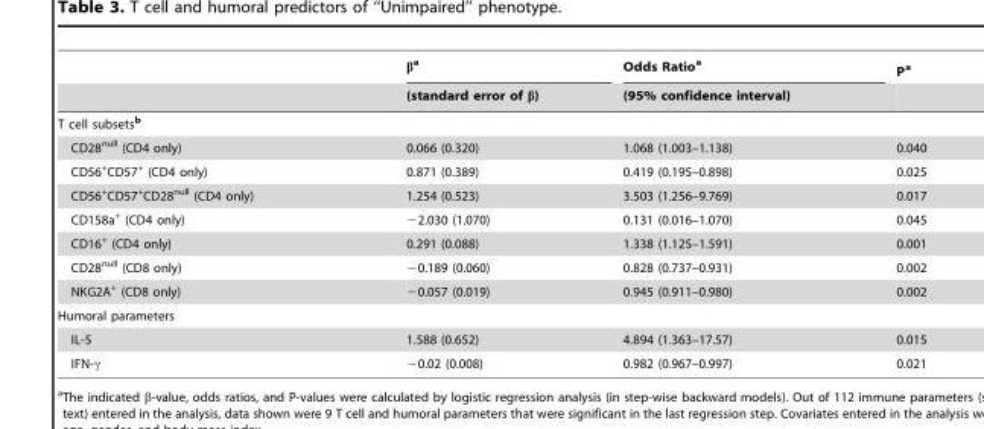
<table><thead><tr><td rowspan="2"></td><td rowspan="2">β<sup>a</sup> (standard error of β)</td><td rowspan="2">Odds Ratio<sup>a</sup> (95% confidence interval)</td><td rowspan="2">P<sup>a</sup></td></tr><tr></tr></thead><tbody><tr><td colspan="4">T cell subsets<sup>b</sup></td></tr><tr><td>CD28<sup>null</sup> (CD4 only)</td><td>0.066 (0.320)</td><td>1.068 (1.003–1.138)</td><td>0.040</td></tr><tr><td>CD56<sup>+</sup>CD57<sup>+</sup> (CD4 only)</td><td>0.871 (0.389)</td><td>0.419 (0.195–0.898)</td><td>0.025</td></tr><tr><td>CD56<sup>+</sup>CD57<sup>+</sup>CD28<sup>null</sup> (CD4 only)</td><td>1.254 (0.523)</td><td>3.503 (1.256–9.769)</td><td>0.017</td></tr><tr><td>CD158a<sup>+</sup> (CD4 only)</td><td>−2.030 (1.070)</td><td>0.131 (0.016–1.070)</td><td>0.045</td></tr><tr><td>CD16<sup>+</sup> (CD4 only)</td><td>0.291 (0.088)</td><td>1.338 (1.125–1.591)</td><td>0.001</td></tr><tr><td>CD28<sup>null</sup> (CD8 only)</td><td>−0.189 (0.060)</td><td>0.828 (0.737–0.931)</td><td>0.002</td></tr><tr><td>NKG2A<sup>+</sup> (CD8 only)</td><td>−0.057 (0.019)</td><td>0.945 (0.911–0.980)</td><td>0.002</td></tr><tr><td colspan="4">Humoral parameters</td></tr><tr><td>IL-5</td><td>1.588 (0.652)</td><td>4.894 (1.363–17.57)</td><td>0.015</td></tr><tr><td>IFN-γ</td><td>−0.02 (0.008)</td><td>0.982 (0.967–0.997)</td><td>0.021</td></tr></tbody></table>